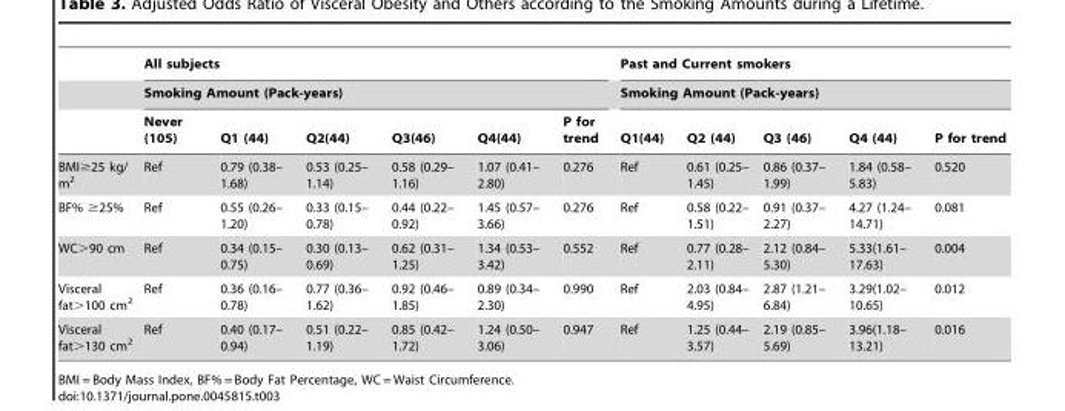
<table><thead><tr><td rowspan="3"></td><td rowspan="2" colspan="6">All subjects Smoking Amount (Pack-years)</td><td rowspan="2" colspan="5">Past and Current smokers Smoking Amount (Pack-years)</td></tr><tr></tr><tr><td>Never (105)</td><td>Q1 (44)</td><td>Q2(44)</td><td>Q3(46)</td><td>Q4(44)</td><td>P for trend</td><td>Q1(44)</td><td>Q2 (44)</td><td>Q3 (46)</td><td>Q4 (44)</td><td>P for trend</td></tr></thead><tbody><tr><td>BMI≥25 kg/ m<sup>2</sup></td><td>Ref</td><td>0.79 (0.38– 1.68)</td><td>0.53 (0.25– 1.14)</td><td>0.58 (0.29– 1.16)</td><td>1.07 (0.41– 2.80)</td><td>0.276</td><td>Ref</td><td>0.61 (0.25– 1.45)</td><td>0.86 (0.37– 1.99)</td><td>1.84 (0.58– 5.83)</td><td>0.520</td></tr><tr><td>BF% ≥25%</td><td>Ref</td><td>0.55 (0.26– 1.20)</td><td>0.33 (0.15– 0.78)</td><td>0.44 (0.22– 0.92)</td><td>1.45 (0.57– 3.66)</td><td>0.276</td><td>Ref</td><td>0.58 (0.22– 1.51)</td><td>0.91 (0.37– 2.27)</td><td>4.27 (1.24– 14.71)</td><td>0.081</td></tr><tr><td>WC&gt;90 cm</td><td>Ref</td><td>0.34 (0.15– 0.75)</td><td>0.30 (0.13– 0.69)</td><td>0.62 (0.31– 1.25)</td><td>1.34 (0.53– 3.42)</td><td>0.552</td><td>Ref</td><td>0.77 (0.28– 2.11)</td><td>2.12 (0.84– 5.30)</td><td>5.33(1.61– 17.63)</td><td>0.004</td></tr><tr><td>Visceral fat&gt;100 cm<sup>2</sup></td><td>Ref</td><td>0.36 (0.16– 0.78)</td><td>0.77 (0.36– 1.62)</td><td>0.92 (0.46– 1.85)</td><td>0.89 (0.34– 2.30)</td><td>0.990</td><td>Ref</td><td>2.03 (0.84– 4.95)</td><td>2.87 (1.21– 6.84)</td><td>3.29(1.02– 10.65)</td><td>0.012</td></tr><tr><td>Visceral fat&gt;130 cm<sup>2</sup></td><td>Ref</td><td>0.40 (0.17– 0.94)</td><td>0.51 (0.22– 1.19)</td><td>0.85 (0.42– 1.72)</td><td>1.24 (0.50– 3.06)</td><td>0.947</td><td>Ref</td><td>1.25 (0.44– 3.57)</td><td>2.19 (0.85– 5.69)</td><td>3.96(1.18– 13.21)</td><td>0.016</td></tr></tbody></table>